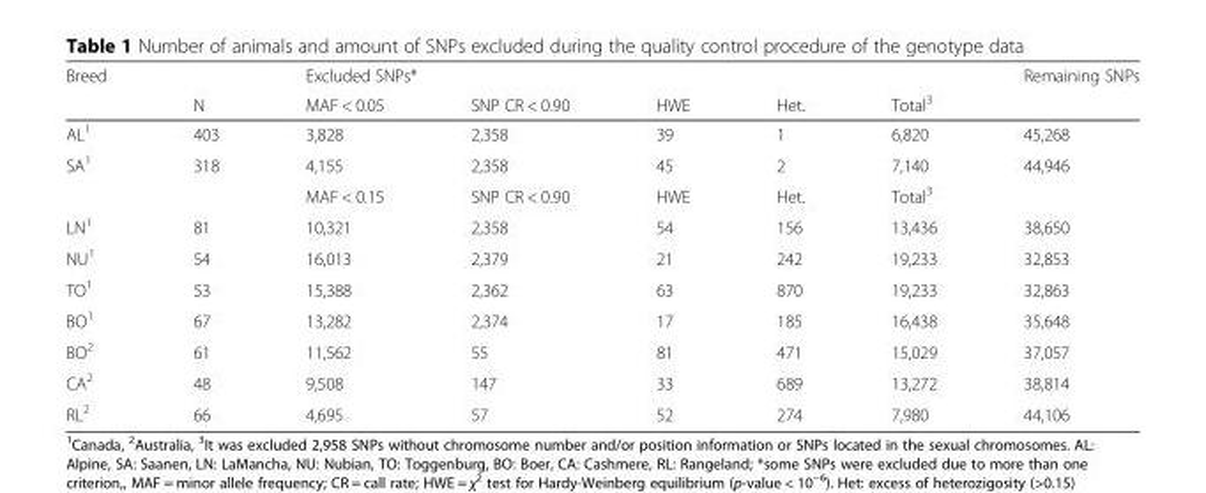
<table><thead><tr><td rowspan="2">Breed</td><td rowspan="2">N</td><td colspan="5">Excluded SNPs*</td><td rowspan="2">Remaining SNPs</td></tr><tr><td>MAF &lt; 0.05</td><td>SNP CR &lt; 0.90</td><td>HWE</td><td>Het.</td><td>Total<sup>3</sup></td></tr></thead><tbody><tr><td>AL<sup>1</sup></td><td>403</td><td>3,828</td><td>2,358</td><td>39</td><td>1</td><td>6,820</td><td>45,268</td></tr><tr><td rowspan="2">SA<sup>1</sup></td><td>318</td><td>4,155</td><td>2,358</td><td>45</td><td>2</td><td>7,140</td><td>44,946</td></tr><tr><td></td><td>MAF &lt; 0.15</td><td>SNP CR &lt; 0.90</td><td>HWE</td><td>Het.</td><td>Total<sup>3</sup></td><td></td></tr><tr><td>LN<sup>1</sup></td><td>81</td><td>10,321</td><td>2,358</td><td>54</td><td>156</td><td>13,436</td><td>38,650</td></tr><tr><td>NU<sup>1</sup></td><td>54</td><td>16,013</td><td>2,379</td><td>21</td><td>242</td><td>19,233</td><td>32,853</td></tr><tr><td>TO<sup>1</sup></td><td>53</td><td>15,388</td><td>2,362</td><td>63</td><td>870</td><td>19,233</td><td>32,863</td></tr><tr><td>BO<sup>1</sup></td><td>67</td><td>13,282</td><td>2,374</td><td>17</td><td>185</td><td>16,438</td><td>35,648</td></tr><tr><td>BO<sup>2</sup></td><td>61</td><td>11,562</td><td>55</td><td>81</td><td>471</td><td>15,029</td><td>37,057</td></tr><tr><td>CA<sup>2</sup></td><td>48</td><td>9,508</td><td>147</td><td>33</td><td>689</td><td>13,272</td><td>38,814</td></tr><tr><td>RL<sup>2</sup></td><td>66</td><td>4,695</td><td>57</td><td>52</td><td>274</td><td>7,980</td><td>44,106</td></tr></tbody></table>